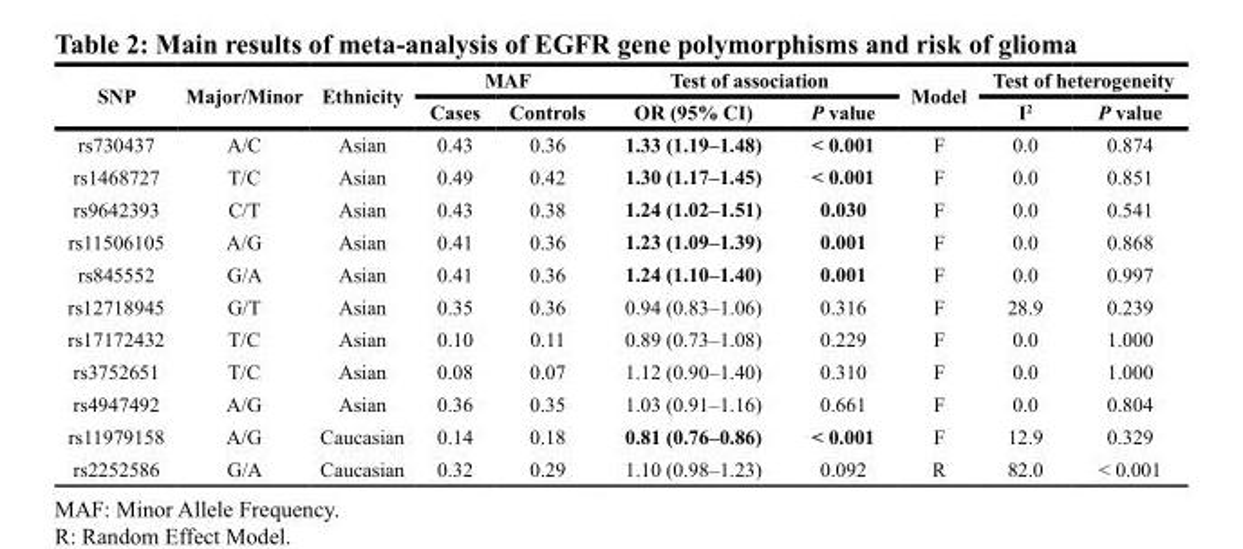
<table><thead><tr><td rowspan="2">SNP</td><td rowspan="2">Major/Minor</td><td rowspan="2">Ethnicity</td><td colspan="2">MAF</td><td colspan="2">Test of association</td><td rowspan="2">Model</td><td colspan="2">Test of heterogeneity</td></tr><tr><td>Cases</td><td>Controls</td><td>OR (95% CI)</td><td>P value</td><td>I<sup>2</sup></td><td>P value</td></tr></thead><tbody><tr><td>rs730437</td><td>A/C</td><td>Asian</td><td>0.43</td><td>0.36</td><td>1.33 (1.19–1.48)</td><td>&lt; 0.001</td><td>F</td><td>0.0</td><td>0.874</td></tr><tr><td>rs1468727</td><td>T/C</td><td>Asian</td><td>0.49</td><td>0.42</td><td>1.30 (1.17–1.45)</td><td>&lt; 0.001</td><td>F</td><td>0.0</td><td>0.851</td></tr><tr><td>rs9642393</td><td>C/T</td><td>Asian</td><td>0.43</td><td>0.38</td><td>1.24 (1.02–1.51)</td><td>0.030</td><td>F</td><td>0.0</td><td>0.541</td></tr><tr><td>rs11506105</td><td>A/G</td><td>Asian</td><td>0.41</td><td>0.36</td><td>1.23 (1.09–1.39)</td><td>0.001</td><td>F</td><td>0.0</td><td>0.868</td></tr><tr><td>rs845552</td><td>G/A</td><td>Asian</td><td>0.41</td><td>0.36</td><td>1.24 (1.10–1.40)</td><td>0.001</td><td>F</td><td>0.0</td><td>0.997</td></tr><tr><td>rs12718945</td><td>G/T</td><td>Asian</td><td>0.35</td><td>0.36</td><td>0.94 (0.83–1.06)</td><td>0.316</td><td>F</td><td>28.9</td><td>0.239</td></tr><tr><td>rs17172432</td><td>T/C</td><td>Asian</td><td>0.10</td><td>0.11</td><td>0.89 (0.73–1.08)</td><td>0.229</td><td>F</td><td>0.0</td><td>1.000</td></tr><tr><td>rs3752651</td><td>T/C</td><td>Asian</td><td>0.08</td><td>0.07</td><td>1.12 (0.90–1.40)</td><td>0.310</td><td>F</td><td>0.0</td><td>1.000</td></tr><tr><td>rs4947492</td><td>A/G</td><td>Asian</td><td>0.36</td><td>0.35</td><td>1.03 (0.91–1.16)</td><td>0.661</td><td>F</td><td>0.0</td><td>0.804</td></tr><tr><td>rs11979158</td><td>A/G</td><td>Caucasian</td><td>0.14</td><td>0.18</td><td>0.81 (0.76–0.86)</td><td>&lt; 0.001</td><td>F</td><td>12.9</td><td>0.329</td></tr><tr><td>rs2252586</td><td>G/A</td><td>Caucasian</td><td>0.32</td><td>0.29</td><td>1.10 (0.98–1.23)</td><td>0.092</td><td>R</td><td>82.0</td><td>&lt; 0.001</td></tr></tbody></table>